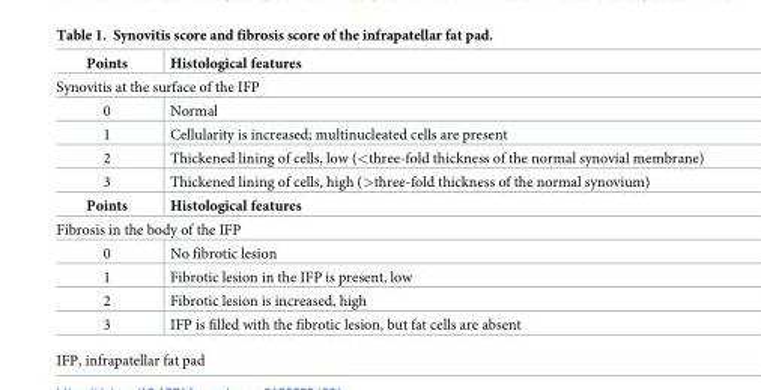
<table><tbody><tr><td>Points</td><td>Histological features</td></tr><tr><td colspan="2">Synovitis at the surface of the IFP</td></tr><tr><td>0</td><td>Normal</td></tr><tr><td>1</td><td>Cellularity is increased; multinucleated cells are present</td></tr><tr><td>2</td><td>Thickened lining of cells, low (&lt;three-fold thickness of the normal synovial membrane)</td></tr><tr><td>3</td><td>Thickened lining of cells, high (&gt;three-fold thickness of the normal synovium)</td></tr><tr><td>Points</td><td>Histological features</td></tr><tr><td colspan="2">Fibrosis in the body of the IFP</td></tr><tr><td>0</td><td>No fibrotic lesion</td></tr><tr><td>1</td><td>Fibrotic lesion in the IFP is present, low</td></tr><tr><td>2</td><td>Fibrotic lesion is increased, high</td></tr><tr><td>3</td><td>IFP is filled with the fibrotic lesion, but fat cells are absent</td></tr></tbody></table>